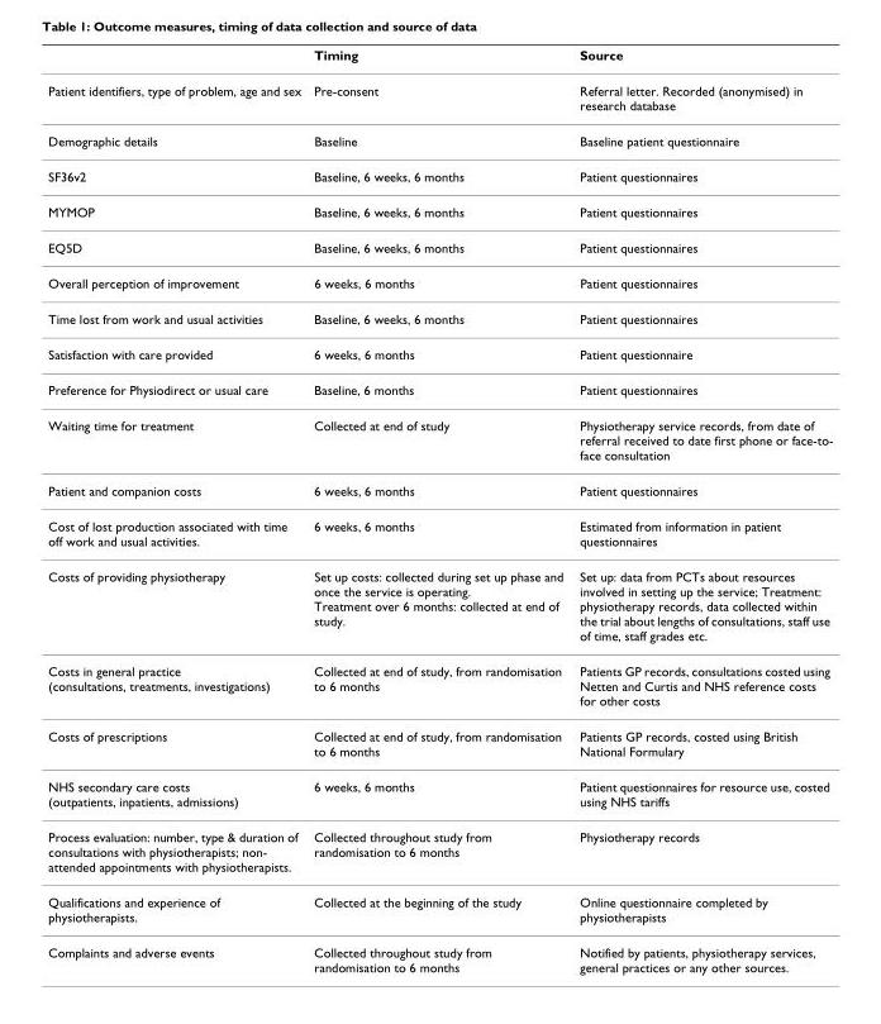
<table><thead><tr><td></td><td>Timing</td><td>Source</td></tr></thead><tbody><tr><td>Patient identifiers, type of problem, age and sex</td><td>Pre-consent</td><td>Referral letter. Recorded (anonymised) in research database</td></tr><tr><td>Demographic details</td><td>Baseline</td><td>Baseline patient questionnaire</td></tr><tr><td>SF36v2</td><td>Baseline, 6 weeks, 6 months</td><td>Patient questionnaires</td></tr><tr><td>MYMOP</td><td>Baseline, 6 weeks, 6 months</td><td>Patient questionnaires</td></tr><tr><td>EQ5D</td><td>Baseline, 6 weeks, 6 months</td><td>Patient questionnaires</td></tr><tr><td>Overall perception of improvement</td><td>6 weeks, 6 months</td><td>Patient questionnaires</td></tr><tr><td>Time lost from work and usual activities</td><td>Baseline, 6 weeks, 6 months</td><td>Patient questionnaires</td></tr><tr><td>Satisfaction with care provided</td><td>6 weeks, 6 months</td><td>Patient questionnaire</td></tr><tr><td>Preference for Physiodirect or usual care</td><td>Baseline, 6 months</td><td>Patient questionnaires</td></tr><tr><td>Waiting time for treatment</td><td>Collected at end of study</td><td>Physiotherapy service records, from date of referral received to date first phone or face-to- face consultation</td></tr><tr><td>Patient and companion costs</td><td>6 weeks, 6 months</td><td>Patient questionnaires</td></tr><tr><td>Cost of lost production associated with time off work and usual activities.</td><td>6 weeks, 6 months</td><td>Estimated from information in patient questionnaires</td></tr><tr><td>Costs of providing physiotherapy</td><td>Set up costs: collected during set up phase and once the service is operating. Treatment over 6 months: collected at end of study.</td><td>Set up: data from PCTs about resources involved in setting up the service; Treatment: physiotherapy records, data collected within the trial about lengths of consultations, staff use of time, staff grades etc.</td></tr><tr><td>Costs in general practice (consultations, treatments, investigations)</td><td>Collected at end of study, from randomisation to 6 months</td><td>Patients GP records, consultations costed using Netten and Curtis and NHS reference costs for other costs</td></tr><tr><td>Costs of prescriptions</td><td>Collected at end of study, from randomisation to 6 months</td><td>Patients GP records, costed using British National Formulary</td></tr><tr><td>NHS secondary care costs (outpatients, inpatients, admissions)</td><td>6 weeks, 6 months</td><td>Patient questionnaires for resource use, costed using NHS tariffs</td></tr><tr><td>Process evaluation: number, type &amp; duration of consultations with physiotherapists; non- attended appointments with physiotherapists.</td><td>Collected throughout study from randomisation to 6 months</td><td>Physiotherapy records</td></tr><tr><td>Qualifications and experience of physiotherapists.</td><td>Collected at the beginning of the study</td><td>Online questionnaire completed by physiotherapists</td></tr><tr><td>Complaints and adverse events</td><td>Collected throughout study from randomisation to 6 months</td><td>Notified by patients, physiotherapy services, general practices or any other sources.</td></tr></tbody></table>